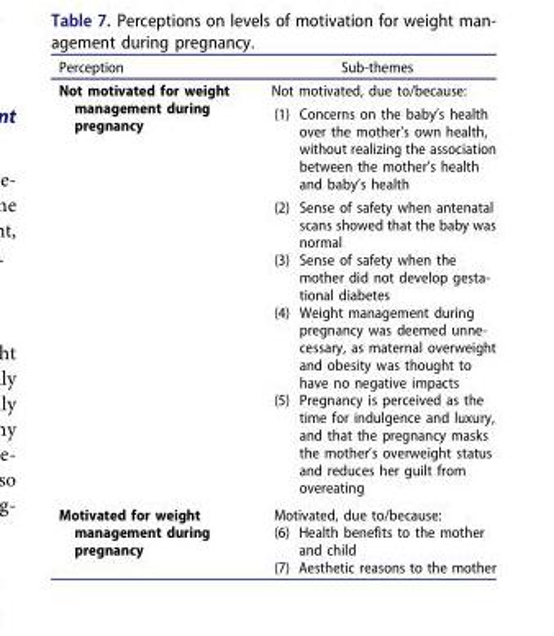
<table><thead><tr><td>Perception</td><td>Sub-themes</td></tr></thead><tbody><tr><td>Not motivated for weight management during pregnancy</td><td>Not motivated, due to/because: (1) Concerns on the baby’s health over the mother’s own health, without realizing the association between the mother’s health and baby’s health (2) Sense of safety when antenatal scans showed that the baby was normal (3) Sense of safety when the mother did not develop gesta- tional diabetes (4) Weight management during pregnancy was deemed unne- cessary, as maternal overweight and obesity was thought to have no negative impacts (5) Pregnancy is perceived as the time for indulgence and luxury, and that the pregnancy masks the mother’s overweight status and reduces her guilt from overeating</td></tr><tr><td>Motivated for weight management during pregnancy</td><td>Motivated, due to/because: (6) Health benefits to the mother and child (7) Aesthetic reasons to the mother</td></tr></tbody></table>